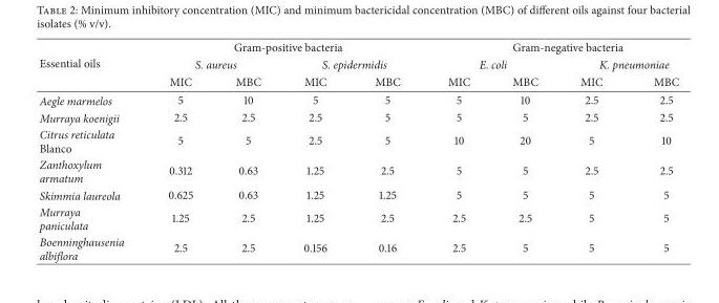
<table><thead><tr><td rowspan="3">Essential oils</td><td colspan="4">Gram-positive bacteria</td><td colspan="4">Gram-negative bacteria</td></tr><tr><td colspan="2">S. aureus</td><td colspan="2">S. epidermidis</td><td colspan="2">E. coli</td><td colspan="2">K. pneumoniae</td></tr><tr><td>MIC</td><td>MBC</td><td>MIC</td><td>MBC</td><td>MIC</td><td>MBC</td><td>MIC</td><td>MBC</td></tr></thead><tbody><tr><td>Aegle marmelos</td><td>5</td><td>10</td><td>5</td><td>5</td><td>5</td><td>10</td><td>2.5</td><td>2.5</td></tr><tr><td>Murraya koenigii</td><td>2.5</td><td>2.5</td><td>2.5</td><td>5</td><td>5</td><td>5</td><td>2.5</td><td>2.5</td></tr><tr><td>Citrus reticulata Blanco</td><td>5</td><td>5</td><td>2.5</td><td>5</td><td>10</td><td>20</td><td>5</td><td>10</td></tr><tr><td>Zanthoxylum armatum</td><td>0.312</td><td>0.63</td><td>1.25</td><td>2.5</td><td>5</td><td>5</td><td>2.5</td><td>2.5</td></tr><tr><td>Skimmia laureola</td><td>0.625</td><td>0.63</td><td>1.25</td><td>1.25</td><td>5</td><td>5</td><td>5</td><td>5</td></tr><tr><td>Murraya paniculata</td><td>1.25</td><td>2.5</td><td>1.25</td><td>2.5</td><td>2.5</td><td>2.5</td><td>5</td><td>5</td></tr><tr><td>Boenninghausenia albiflora</td><td>2.5</td><td>2.5</td><td>0.156</td><td>0.16</td><td>2.5</td><td>5</td><td>5</td><td>5</td></tr></tbody></table>